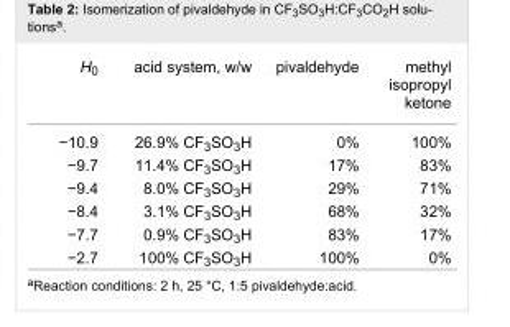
<table><tbody><tr><td>H<sub>0</sub></td><td>acid system, w/w</td><td>pivaldehyde</td><td>methyl isopropyl ketone</td></tr><tr><td>−10.9</td><td>26.9% CF<sub>3</sub>SO<sub>3</sub>H</td><td>0%</td><td>100%</td></tr><tr><td>−9.7</td><td>11.4% CF<sub>3</sub>SO<sub>3</sub>H</td><td>17%</td><td>83%</td></tr><tr><td>−9.4</td><td>8.0% CF<sub>3</sub>SO<sub>3</sub>H</td><td>29%</td><td>71%</td></tr><tr><td>−8.4</td><td>3.1% CF<sub>3</sub>SO<sub>3</sub>H</td><td>68%</td><td>32%</td></tr><tr><td>−7.7</td><td>0.9% CF<sub>3</sub>SO<sub>3</sub>H</td><td>83%</td><td>17%</td></tr><tr><td>−2.7</td><td>100% CF<sub>3</sub>SO<sub>3</sub>H</td><td>100%</td><td>0%</td></tr></tbody></table>